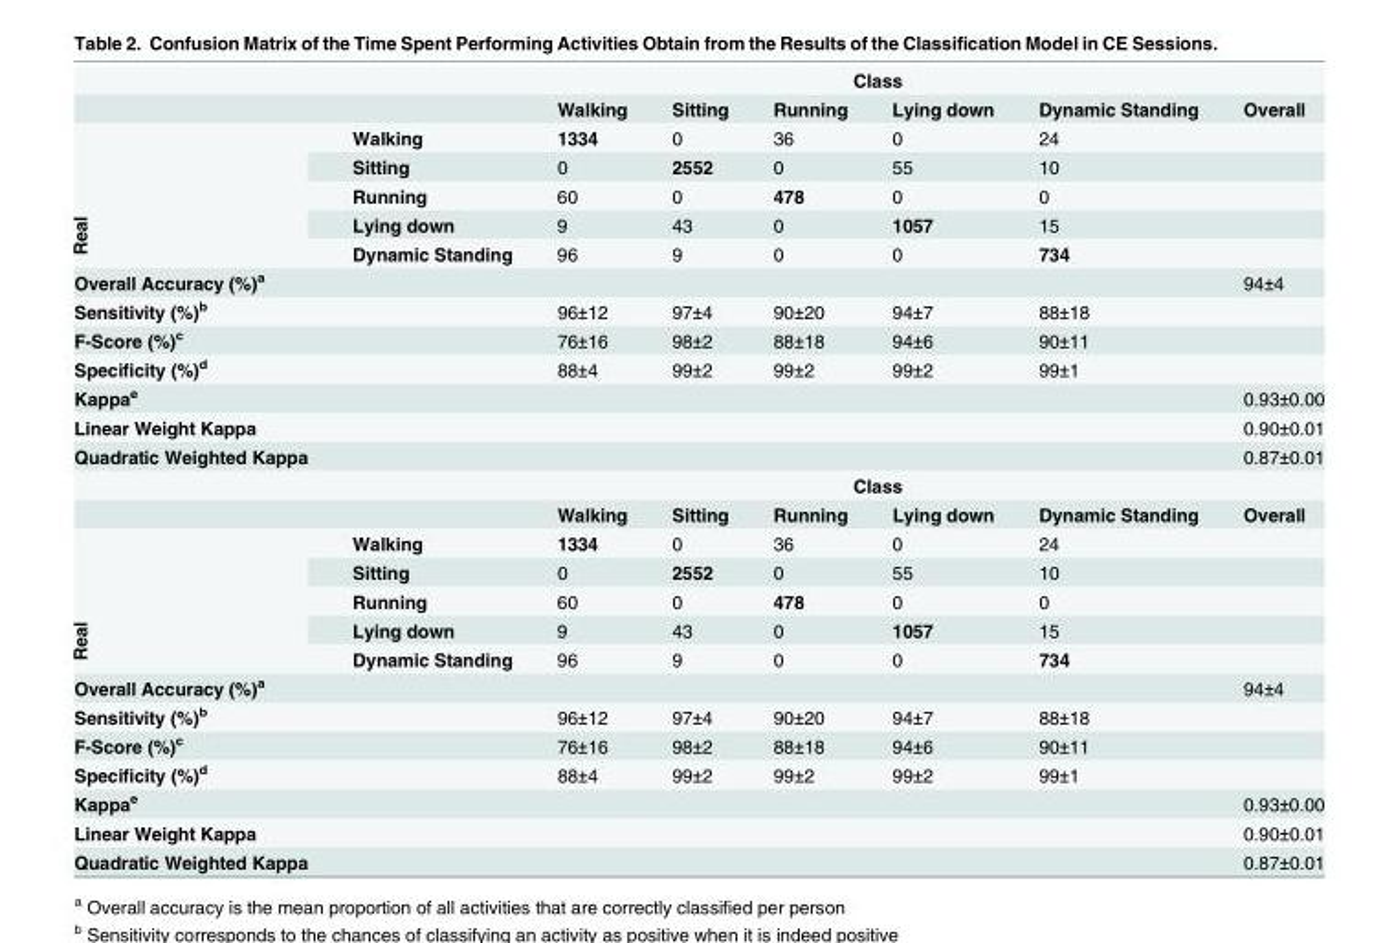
<table><thead><tr><td rowspan="2"></td><td rowspan="2"></td><td colspan="5">Class</td><td rowspan="2">Overall</td></tr><tr><td>Walking</td><td>Sitting</td><td>Running</td><td>Lying down</td><td>Dynamic Standing</td></tr></thead><tbody><tr><td rowspan="5">Real</td><td>Walking</td><td>1334</td><td>0</td><td>36</td><td>0</td><td>24</td><td></td></tr><tr><td>Sitting</td><td>0</td><td>2552</td><td>0</td><td>55</td><td>10</td><td></td></tr><tr><td>Running</td><td>60</td><td>0</td><td>478</td><td>0</td><td>0</td><td></td></tr><tr><td>Lying down</td><td>9</td><td>43</td><td>0</td><td>1057</td><td>15</td><td></td></tr><tr><td>Dynamic Standing</td><td>96</td><td>9</td><td>0</td><td>0</td><td>734</td><td></td></tr><tr><td>Overall Accuracy (%)<sup>a</sup></td><td></td><td></td><td></td><td></td><td></td><td></td><td>94±4</td></tr><tr><td>Sensitivity (%)<sup>b</sup></td><td></td><td>96±12</td><td>97±4</td><td>90±20</td><td>94±7</td><td>88±18</td><td></td></tr><tr><td>F-Score (%)<sup>c</sup></td><td></td><td>76±16</td><td>98±2</td><td>88±18</td><td>94±6</td><td>90±11</td><td></td></tr><tr><td>Specificity (%)<sup>d</sup></td><td></td><td>88±4</td><td>99±2</td><td>99±2</td><td>99±2</td><td>99±1</td><td></td></tr><tr><td>Kappa<sup>e</sup></td><td></td><td></td><td></td><td></td><td></td><td></td><td>0.93±0.00</td></tr><tr><td>Linear Weight Kappa</td><td></td><td></td><td></td><td></td><td></td><td></td><td>0.90±0.01</td></tr><tr><td rowspan="3">Quadratic Weighted Kappa</td><td></td><td></td><td></td><td></td><td></td><td></td><td>0.87±0.01</td></tr><tr><td></td><td colspan="5">Class</td><td></td></tr><tr><td></td><td>Walking</td><td>Sitting</td><td>Running</td><td>Lying down</td><td>Dynamic Standing</td><td>Overall</td></tr><tr><td rowspan="5">Real</td><td>Walking</td><td>1334</td><td>0</td><td>36</td><td>0</td><td>24</td><td></td></tr><tr><td>Sitting</td><td>0</td><td>2552</td><td>0</td><td>55</td><td>10</td><td></td></tr><tr><td>Running</td><td>60</td><td>0</td><td>478</td><td>0</td><td>0</td><td></td></tr><tr><td>Lying down</td><td>9</td><td>43</td><td>0</td><td>1057</td><td>15</td><td></td></tr><tr><td>Dynamic Standing</td><td>96</td><td>9</td><td>0</td><td>0</td><td>734</td><td></td></tr><tr><td>Overall Accuracy (%)<sup>a</sup></td><td></td><td></td><td></td><td></td><td></td><td></td><td>94±4</td></tr><tr><td>Sensitivity (%)<sup>b</sup></td><td></td><td>96±12</td><td>97±4</td><td>90±20</td><td>94±7</td><td>88±18</td><td></td></tr><tr><td>F-Score (%)<sup>c</sup></td><td></td><td>76±16</td><td>98±2</td><td>88±18</td><td>94±6</td><td>90±11</td><td></td></tr><tr><td>Specificity (%)<sup>d</sup></td><td></td><td>88±4</td><td>99±2</td><td>99±2</td><td>99±2</td><td>99±1</td><td></td></tr><tr><td>Kappa<sup>e</sup></td><td></td><td></td><td></td><td></td><td></td><td></td><td>0.93±0.00</td></tr><tr><td>Linear Weight Kappa</td><td></td><td></td><td></td><td></td><td></td><td></td><td>0.90±0.01</td></tr><tr><td>Quadratic Weighted Kappa</td><td></td><td></td><td></td><td></td><td></td><td></td><td>0.87±0.01</td></tr></tbody></table>